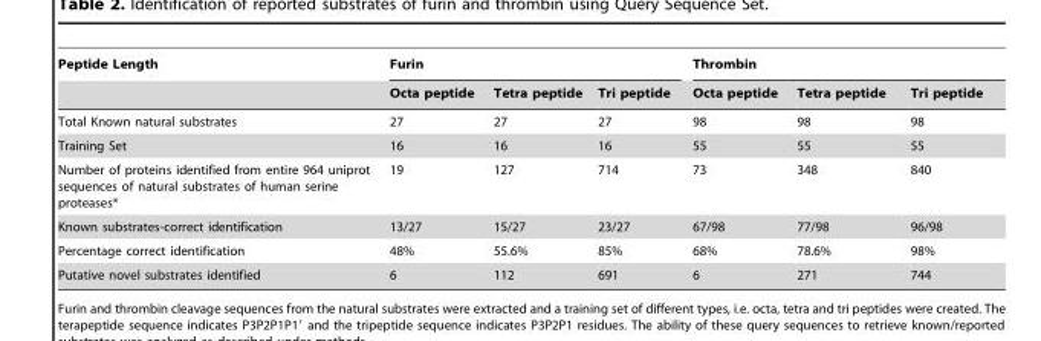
<table><thead><tr><td rowspan="2">Peptide Length</td><td colspan="3">Furin</td><td colspan="3">Thrombin</td></tr><tr><td>Octa peptide</td><td>Tetra peptide</td><td>Tri peptide</td><td>Octa peptide</td><td>Tetra peptide</td><td>Tri peptide</td></tr></thead><tbody><tr><td>Total Known natural substrates</td><td>27</td><td>27</td><td>27</td><td>98</td><td>98</td><td>98</td></tr><tr><td>Training Set</td><td>16</td><td>16</td><td>16</td><td>55</td><td>55</td><td>55</td></tr><tr><td>Number of proteins identified from entire 964 uniprot sequences of natural substrates of human serine proteases*</td><td>19</td><td>127</td><td>714</td><td>73</td><td>348</td><td>840</td></tr><tr><td>Known substrates-correct identification</td><td>13/27</td><td>15/27</td><td>23/27</td><td>67/98</td><td>77/98</td><td>96/98</td></tr><tr><td>Percentage correct identification</td><td>48%</td><td>55.6%</td><td>85%</td><td>68%</td><td>78.6%</td><td>98%</td></tr><tr><td>Putative novel substrates identified</td><td>6</td><td>112</td><td>691</td><td>6</td><td>271</td><td>744</td></tr></tbody></table>